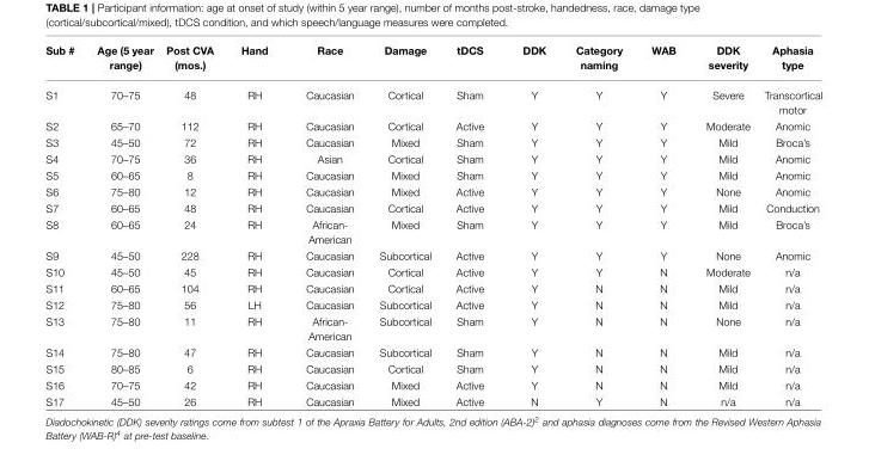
<table><thead><tr><td>Sub #</td><td>Age (5 year range)</td><td>Post CVA (mos.)</td><td>Hand</td><td>Race</td><td>Damage</td><td>tDCS</td><td>DDK</td><td>Category naming</td><td>WAB</td><td>DDK severity</td><td>Aphasia type</td></tr></thead><tbody><tr><td>S1</td><td>70–75</td><td>48</td><td>RH</td><td>Caucasian</td><td>Cortical</td><td>Sham</td><td>Y</td><td>Y</td><td>Y</td><td>Severe</td><td>Transcortical motor</td></tr><tr><td>S2</td><td>65–70</td><td>112</td><td>RH</td><td>Caucasian</td><td>Cortical</td><td>Active</td><td>Y</td><td>Y</td><td>Y</td><td>Moderate</td><td>Anomic</td></tr><tr><td>S3</td><td>45–50</td><td>72</td><td>RH</td><td>Caucasian</td><td>Mixed</td><td>Sham</td><td>Y</td><td>Y</td><td>Y</td><td>Mild</td><td>Broca’s</td></tr><tr><td>S4</td><td>70–75</td><td>36</td><td>RH</td><td>Asian</td><td>Cortical</td><td>Sham</td><td>Y</td><td>Y</td><td>Y</td><td>Mild</td><td>Anomic</td></tr><tr><td>S5</td><td>60–65</td><td>8</td><td>RH</td><td>Caucasian</td><td>Mixed</td><td>Sham</td><td>Y</td><td>Y</td><td>Y</td><td>Mild</td><td>Anomic</td></tr><tr><td>S6</td><td>75–80</td><td>12</td><td>RH</td><td>Caucasian</td><td>Mixed</td><td>Active</td><td>Y</td><td>Y</td><td>Y</td><td>None</td><td>Anomic</td></tr><tr><td>S7</td><td>60–65</td><td>48</td><td>RH</td><td>Caucasian</td><td>Cortical</td><td>Active</td><td>Y</td><td>Y</td><td>Y</td><td>Mild</td><td>Conduction</td></tr><tr><td>S8</td><td>60–65</td><td>24</td><td>RH</td><td>African- American</td><td>Mixed</td><td>Sham</td><td>Y</td><td>Y</td><td>Y</td><td>Mild</td><td>Broca’s</td></tr><tr><td>S9</td><td>45–50</td><td>228</td><td>RH</td><td>Caucasian</td><td>Subcortical</td><td>Active</td><td>Y</td><td>Y</td><td>Y</td><td>None</td><td>Anomic</td></tr><tr><td>S10</td><td>45–50</td><td>45</td><td>RH</td><td>Caucasian</td><td>Cortical</td><td>Active</td><td>Y</td><td>Y</td><td>N</td><td>Moderate</td><td>n/a</td></tr><tr><td>S11</td><td>60–65</td><td>104</td><td>RH</td><td>Caucasian</td><td>Cortical</td><td>Active</td><td>Y</td><td>N</td><td>N</td><td>Mild</td><td>n/a</td></tr><tr><td>S12</td><td>75–80</td><td>56</td><td>LH</td><td>Caucasian</td><td>Subcortical</td><td>Active</td><td>Y</td><td>N</td><td>N</td><td>Mild</td><td>n/a</td></tr><tr><td>S13</td><td>75–80</td><td>11</td><td>RH</td><td>African- American</td><td>Subcortical</td><td>Sham</td><td>Y</td><td>N</td><td>N</td><td>None</td><td>n/a</td></tr><tr><td>S14</td><td>75–80</td><td>47</td><td>RH</td><td>Caucasian</td><td>Subcortical</td><td>Sham</td><td>Y</td><td>N</td><td>N</td><td>Mild</td><td>n/a</td></tr><tr><td>S15</td><td>80–85</td><td>6</td><td>RH</td><td>Caucasian</td><td>Cortical</td><td>Sham</td><td>Y</td><td>N</td><td>N</td><td>Mild</td><td>n/a</td></tr><tr><td>S16</td><td>70–75</td><td>42</td><td>RH</td><td>Caucasian</td><td>Mixed</td><td>Active</td><td>Y</td><td>N</td><td>N</td><td>Mild</td><td>n/a</td></tr><tr><td>S17</td><td>45–50</td><td>26</td><td>RH</td><td>Caucasian</td><td>Mixed</td><td>Active</td><td>N</td><td>Y</td><td>N</td><td>n/a</td><td>n/a</td></tr></tbody></table>